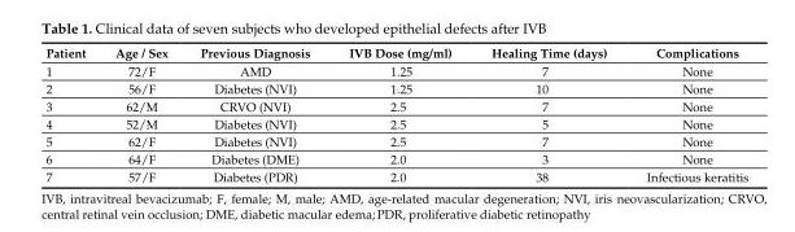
<table><thead><tr><td>Patient</td><td>Age / Sex</td><td>Previous Diagnosis</td><td>IVB Dose (mg/ml)</td><td>Healing Time (days)</td><td>Complications</td></tr></thead><tbody><tr><td>1</td><td>72/F</td><td>AMD</td><td>1.25</td><td>7</td><td>None</td></tr><tr><td>2</td><td>56/F</td><td>Diabetes (NVI)</td><td>1.25</td><td>10</td><td>None</td></tr><tr><td>3</td><td>62/M</td><td>CRVO (NVI)</td><td>2.5</td><td>7</td><td>None</td></tr><tr><td>4</td><td>52/M</td><td>Diabetes (NVI)</td><td>2.5</td><td>5</td><td>None</td></tr><tr><td>5</td><td>62/F</td><td>Diabetes (NVI)</td><td>2.5</td><td>7</td><td>None</td></tr><tr><td>6</td><td>64/F</td><td>Diabetes (DME)</td><td>2.0</td><td>3</td><td>None</td></tr><tr><td>7</td><td>57/F</td><td>Diabetes (PDR)</td><td>2.0</td><td>38</td><td>Infectious keratitis</td></tr></tbody></table>